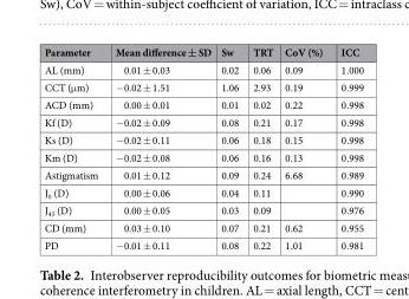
<table><thead><tr><td>Parameter</td><td>Mean difference ± SD</td><td>Sw</td><td>TRT</td><td>CoV (%)</td><td>ICC</td></tr></thead><tbody><tr><td>AL (mm)</td><td>0.01 ± 0.03</td><td>0.02</td><td>0.06</td><td>0.09</td><td>1.000</td></tr><tr><td>CCT (μm)</td><td>−0.02 ± 1.51</td><td>1.06</td><td>2.93</td><td>0.19</td><td>0.999</td></tr><tr><td>ACD (mm)</td><td>0.00 ± 0.01</td><td>0.01</td><td>0.02</td><td>0.22</td><td>0.998</td></tr><tr><td>Kf (D)</td><td>−0.02 ± 0.09</td><td>0.08</td><td>0.21</td><td>0.17</td><td>0.998</td></tr><tr><td>Ks (D)</td><td>−0.02 ± 0.11</td><td>0.06</td><td>0.18</td><td>0.15</td><td>0.998</td></tr><tr><td>Km (D)</td><td>−0.02 ± 0.08</td><td>0.06</td><td>0.16</td><td>0.13</td><td>0.998</td></tr><tr><td>Astigmatism</td><td>0.01 ± 0.12</td><td>0.09</td><td>0.24</td><td>6.68</td><td>0.989</td></tr><tr><td>J<sub>0</sub> (D)</td><td>0.00 ± 0.06</td><td>0.04</td><td>0.11</td><td></td><td>0.990</td></tr><tr><td>J<sub>45</sub> (D)</td><td>0.00 ± 0.05</td><td>0.03</td><td>0.09</td><td></td><td>0.976</td></tr><tr><td>CD (mm)</td><td>0.03 ± 0.10</td><td>0.07</td><td>0.21</td><td>0.62</td><td>0.955</td></tr><tr><td>PD</td><td>−0.01 ± 0.11</td><td>0.08</td><td>0.22</td><td>1.01</td><td>0.981</td></tr></tbody></table>